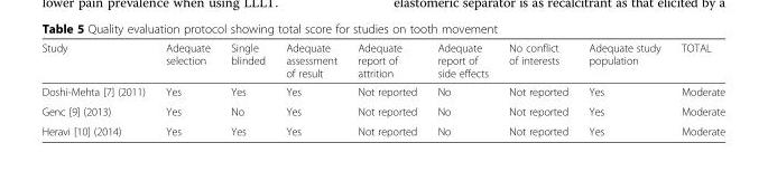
<table><thead><tr><td>Study</td><td>Adequate selection</td><td>Single blinded</td><td>Adequate assessment of result</td><td>Adequate report of attrition</td><td>Adequate report of side effects</td><td>No conflict of interests</td><td>Adequate study population</td><td>TOTAL</td></tr></thead><tbody><tr><td>Doshi-Mehta [7] (2011)</td><td>Yes</td><td>Yes</td><td>Yes</td><td>Not reported</td><td>No</td><td>Not reported</td><td>Yes</td><td>Moderate</td></tr><tr><td>Genc [9] (2013)</td><td>Yes</td><td>No</td><td>Yes</td><td>Not reported</td><td>No</td><td>Not reported</td><td>Yes</td><td>Moderate</td></tr><tr><td>Heravi [10] (2014)</td><td>Yes</td><td>Yes</td><td>Yes</td><td>Not reported</td><td>No</td><td>Not reported</td><td>Yes</td><td>Moderate</td></tr></tbody></table>